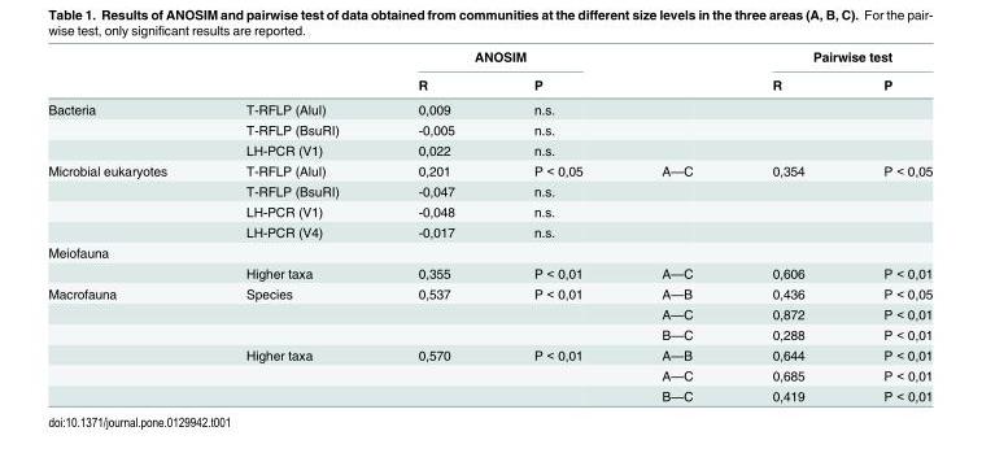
<table><thead><tr><td rowspan="2"></td><td rowspan="2"></td><td colspan="2">ANOSIM</td><td rowspan="2"></td><td colspan="2">Pairwise test</td></tr><tr><td>R</td><td>P</td><td>R</td><td>P</td></tr></thead><tbody><tr><td rowspan="3">Bacteria</td><td>T-RFLP (AluI)</td><td>0,009</td><td>n.s.</td><td></td><td></td><td></td></tr><tr><td>T-RFLP (BsuRI)</td><td>-0,005</td><td>n.s.</td><td></td><td></td><td></td></tr><tr><td>LH-PCR (V1)</td><td>0,022</td><td>n.s.</td><td></td><td></td><td></td></tr><tr><td rowspan="4">Microbial eukaryotes</td><td>T-RFLP (AluI)</td><td>0,201</td><td>P &lt; 0,05</td><td>A—C</td><td>0,354</td><td>P &lt; 0,05</td></tr><tr><td>T-RFLP (BsuRI)</td><td>-0,047</td><td>n.s.</td><td></td><td></td><td></td></tr><tr><td>LH-PCR (V1)</td><td>-0,048</td><td>n.s.</td><td></td><td></td><td></td></tr><tr><td>LH-PCR (V4)</td><td>-0,017</td><td>n.s.</td><td></td><td></td><td></td></tr><tr><td colspan="7">Meiofauna</td></tr><tr><td></td><td>Higher taxa</td><td>0,355</td><td>P &lt; 0,01</td><td>A—C</td><td>0,606</td><td>P &lt; 0,01</td></tr><tr><td rowspan="6">Macrofauna</td><td>Species</td><td>0,537</td><td>P &lt; 0,01</td><td>A—B</td><td>0,436</td><td>P &lt; 0,05</td></tr><tr><td></td><td></td><td></td><td>A—C</td><td>0,872</td><td>P &lt; 0,01</td></tr><tr><td></td><td></td><td></td><td>B—C</td><td>0,288</td><td>P &lt; 0,01</td></tr><tr><td>Higher taxa</td><td>0,570</td><td>P &lt; 0,01</td><td>A—B</td><td>0,644</td><td>P &lt; 0,01</td></tr><tr><td></td><td></td><td></td><td>A—C</td><td>0,685</td><td>P &lt; 0,01</td></tr><tr><td></td><td></td><td></td><td>B—C</td><td>0,419</td><td>P &lt; 0,01</td></tr></tbody></table>